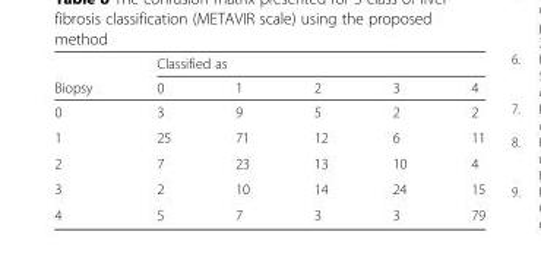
<table><thead><tr><td rowspan="2">Biopsy</td><td colspan="5">Classified as</td></tr><tr><td>0</td><td>1</td><td>2</td><td>3</td><td>4</td></tr></thead><tbody><tr><td>0</td><td>3</td><td>9</td><td>5</td><td>2</td><td>2</td></tr><tr><td>1</td><td>25</td><td>71</td><td>12</td><td>6</td><td>11</td></tr><tr><td>2</td><td>7</td><td>23</td><td>13</td><td>10</td><td>4</td></tr><tr><td>3</td><td>2</td><td>10</td><td>14</td><td>24</td><td>15</td></tr><tr><td>4</td><td>5</td><td>7</td><td>3</td><td>3</td><td>79</td></tr></tbody></table>